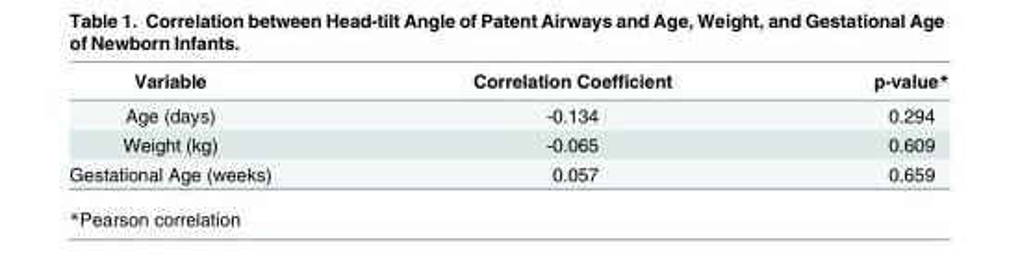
<table><thead><tr><td>Variable</td><td>Correlation Coefficient</td><td>p-value*</td></tr></thead><tbody><tr><td>Age (days)</td><td>-0.134</td><td>0.294</td></tr><tr><td>Weight (kg)</td><td>-0.065</td><td>0.609</td></tr><tr><td>Gestational Age (weeks)</td><td>0.057</td><td>0.659</td></tr></tbody></table>